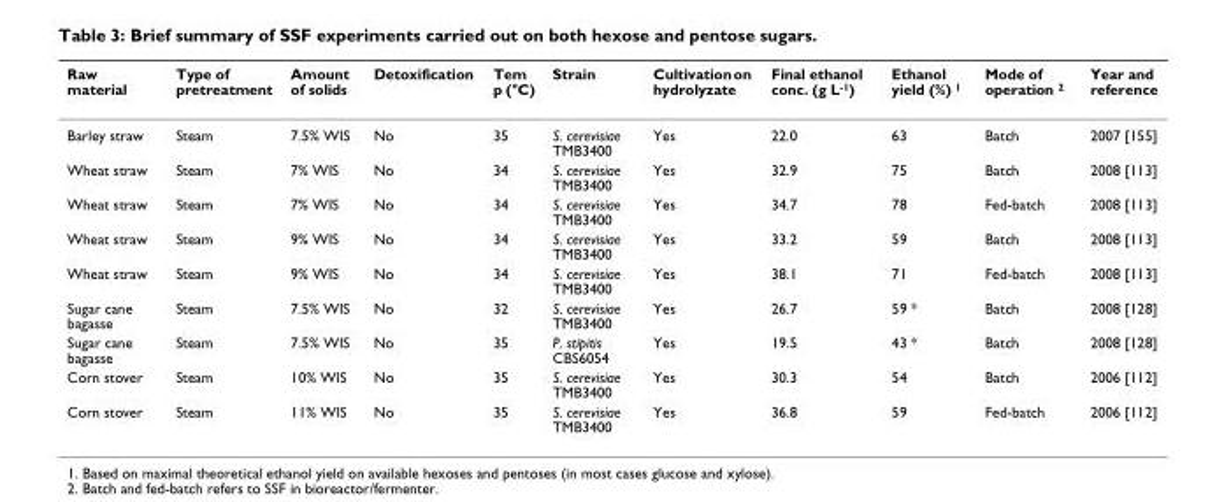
<table><thead><tr><td>Raw material</td><td>Type of pretreatment</td><td>Amount of solids</td><td>Detoxification</td><td>Tem p (°C)</td><td>Strain</td><td>Cultivation on hydrolyzate</td><td>Final ethanol conc. (g L<sup>-1</sup>)</td><td>Ethanol yield (%) <sup>1</sup></td><td>Mode of operation <sup>2</sup></td><td>Year and reference</td></tr></thead><tbody><tr><td>Barley straw</td><td>Steam</td><td>7.5% WIS</td><td>No</td><td>35</td><td>S. cerevisiae TMB3400</td><td>Yes</td><td>22.0</td><td>63</td><td>Batch</td><td>2007 [155]</td></tr><tr><td>Wheat straw</td><td>Steam</td><td>7% WIS</td><td>No</td><td>34</td><td>S. cerevisiae TMB3400</td><td>Yes</td><td>32.9</td><td>75</td><td>Batch</td><td>2008 [113]</td></tr><tr><td>Wheat straw</td><td>Steam</td><td>7% WIS</td><td>No</td><td>34</td><td>S. cerevisiae TMB3400</td><td>Yes</td><td>34.7</td><td>78</td><td>Fed-batch</td><td>2008 [113]</td></tr><tr><td>Wheat straw</td><td>Steam</td><td>9% WIS</td><td>No</td><td>34</td><td>S. cerevisiae TMB3400</td><td>Yes</td><td>33.2</td><td>59</td><td>Batch</td><td>2008 [113]</td></tr><tr><td>Wheat straw</td><td>Steam</td><td>9% WIS</td><td>No</td><td>34</td><td>S. cerevisiae TMB3400</td><td>Yes</td><td>38.1</td><td>71</td><td>Fed-batch</td><td>2008 [113]</td></tr><tr><td>Sugar cane bagasse</td><td>Steam</td><td>7.5% WIS</td><td>No</td><td>32</td><td>S. cerevisiae TMB3400</td><td>Yes</td><td>26.7</td><td>59 *</td><td>Batch</td><td>2008 [128]</td></tr><tr><td>Sugar cane bagasse</td><td>Steam</td><td>7.5% WIS</td><td>No</td><td>35</td><td>P. stipitis CBS6054</td><td>Yes</td><td>19.5</td><td>43 *</td><td>Batch</td><td>2008 [128]</td></tr><tr><td>Corn stover</td><td>Steam</td><td>10% WIS</td><td>No</td><td>35</td><td>S. cerevisiae TMB3400</td><td>Yes</td><td>30.3</td><td>54</td><td>Batch</td><td>2006 [112]</td></tr><tr><td>Corn stover</td><td>Steam</td><td>11% WIS</td><td>No</td><td>35</td><td>S. cerevisiae TMB3400</td><td>Yes</td><td>36.8</td><td>59</td><td>Fed-batch</td><td>2006 [112]</td></tr></tbody></table>